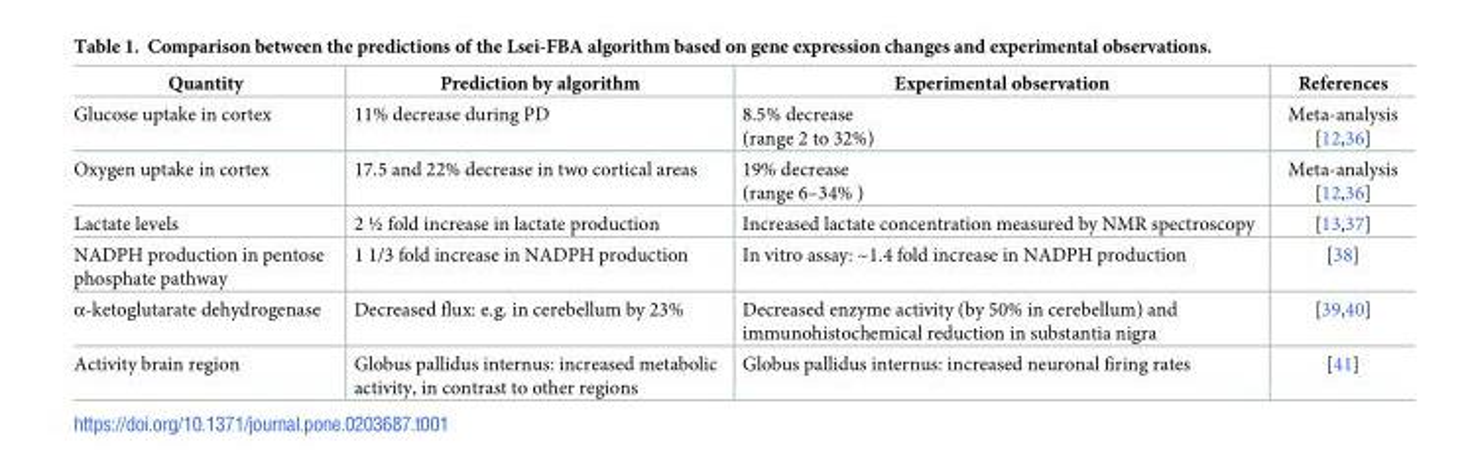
<table><thead><tr><td>Quantity</td><td>Prediction by algorithm</td><td>Experimental observation</td><td>References</td></tr></thead><tbody><tr><td>Glucose uptake in cortex</td><td>11% decrease during PD</td><td>8.5% decrease (range 2 to 32%)</td><td>Meta-analysis [12,36]</td></tr><tr><td>Oxygen uptake in cortex</td><td>17.5 and 22% decrease in two cortical areas</td><td>19% decrease (range 6–34% )</td><td>Meta-analysis [12,36]</td></tr><tr><td>Lactate levels</td><td>2 ½ fold increase in lactate production</td><td>Increased lactate concentration measured by NMR spectroscopy</td><td>[13,37]</td></tr><tr><td>NADPH production in pentose phosphate pathway</td><td>1 1/3 fold increase in NADPH production</td><td>In vitro assay: ~1.4 fold increase in NADPH production</td><td>[38]</td></tr><tr><td>α-ketoglutarate dehydrogenase</td><td>Decreased flux: e.g. in cerebellum by 23%</td><td>Decreased enzyme activity (by 50% in cerebellum) and immunohistochemical reduction in substantia nigra</td><td>[39,40]</td></tr><tr><td>Activity brain region</td><td>Globus pallidus internus: increased metabolic activity, in contrast to other regions</td><td>Globus pallidus internus: increased neuronal firing rates</td><td>[41]</td></tr></tbody></table>